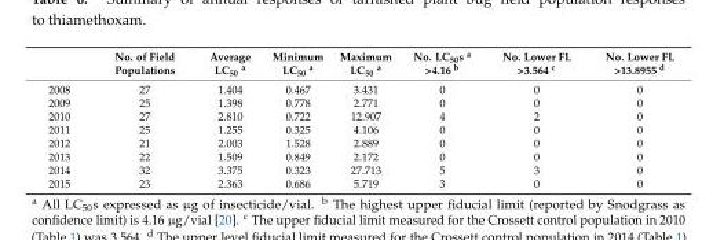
<table><thead><tr><td></td><td>No. of Field Populations</td><td>Average LC<sub>50</sub> <sup>a</sup></td><td>Minimum LC<sub>50</sub> <sup>a</sup></td><td>Maximum LC<sub>50</sub> <sup>a</sup></td><td>No. LC<sub>50</sub>s <sup>a</sup> &gt;4.16 <sup>b</sup></td><td>No. Lower FL &gt;3.564 <sup>c</sup></td><td>No. Lower FL &gt;13.8955 <sup>d</sup></td></tr></thead><tbody><tr><td>2008</td><td>27</td><td>1.404</td><td>0.467</td><td>3.431</td><td>0</td><td>0</td><td>0</td></tr><tr><td>2009</td><td>25</td><td>1.398</td><td>0.778</td><td>2.771</td><td>0</td><td>0</td><td>0</td></tr><tr><td>2010</td><td>27</td><td>2.810</td><td>0.722</td><td>12.907</td><td>4</td><td>2</td><td>0</td></tr><tr><td>2011</td><td>25</td><td>1.255</td><td>0.325</td><td>4.106</td><td>0</td><td>0</td><td>0</td></tr><tr><td>2012</td><td>21</td><td>2.003</td><td>1.528</td><td>2.889</td><td>0</td><td>0</td><td>0</td></tr><tr><td>2013</td><td>22</td><td>1.509</td><td>0.849</td><td>2.172</td><td>0</td><td>0</td><td>0</td></tr><tr><td>2014</td><td>32</td><td>3.375</td><td>0.323</td><td>27.713</td><td>5</td><td>3</td><td>0</td></tr><tr><td>2015</td><td>23</td><td>2.363</td><td>0.686</td><td>5.719</td><td>3</td><td>0</td><td>0</td></tr></tbody></table>